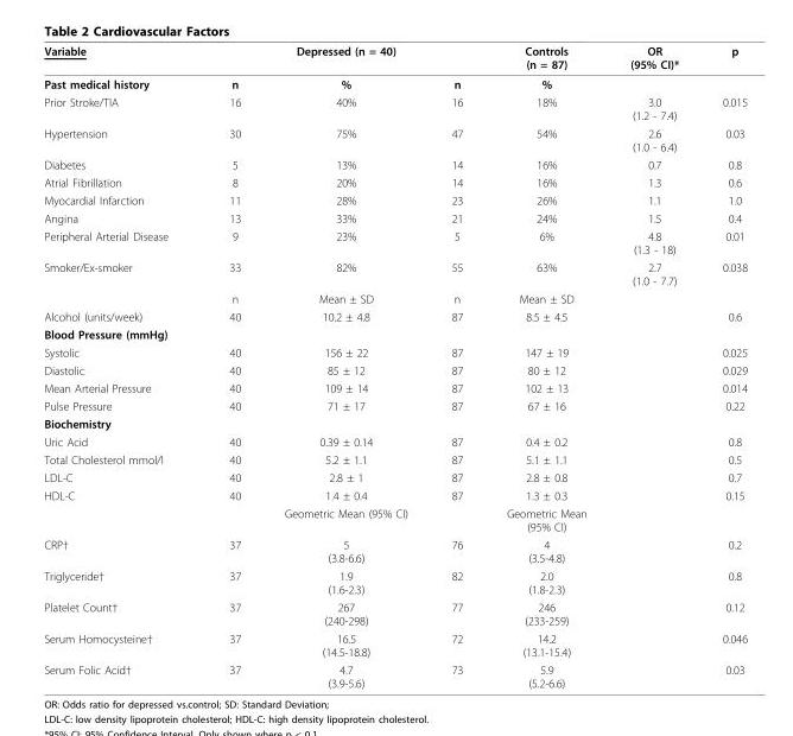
<table><thead><tr><td>Variable</td><td></td><td>Depressed (n = 40)</td><td></td><td>Controls (n = 87)</td><td>OR (95% CI)*</td><td>p</td></tr></thead><tbody><tr><td>Past medical history</td><td>n</td><td>%</td><td>n</td><td>%</td><td></td><td></td></tr><tr><td>Prior Stroke/TIA</td><td>16</td><td>40%</td><td>16</td><td>18%</td><td>3.0 (1.2 - 7.4)</td><td>0.015</td></tr><tr><td>Hypertension</td><td>30</td><td>75%</td><td>47</td><td>54%</td><td>2.6 (1.0 - 6.4)</td><td>0.03</td></tr><tr><td>Diabetes</td><td>5</td><td>13%</td><td>14</td><td>16%</td><td>0.7</td><td>0.8</td></tr><tr><td>Atrial Fibrillation</td><td>8</td><td>20%</td><td>14</td><td>16%</td><td>1.3</td><td>0.6</td></tr><tr><td>Myocardial Infarction</td><td>11</td><td>28%</td><td>23</td><td>26%</td><td>1.1</td><td>1.0</td></tr><tr><td>Angina</td><td>13</td><td>33%</td><td>21</td><td>24%</td><td>1.5</td><td>0.4</td></tr><tr><td>Peripheral Arterial Disease</td><td>9</td><td>23%</td><td>5</td><td>6%</td><td>4.8 (1.3 - 18)</td><td>0.01</td></tr><tr><td rowspan="2">Smoker/Ex-smoker</td><td>33</td><td>82%</td><td>55</td><td>63%</td><td>2.7 (1.0 - 7.7)</td><td>0.038</td></tr><tr><td>n</td><td>Mean ± SD</td><td>n</td><td>Mean ± SD</td><td></td><td></td></tr><tr><td>Alcohol (units/week)</td><td>40</td><td>10.2 ± 4.8</td><td>87</td><td>8.5 ± 4.5</td><td></td><td>0.6</td></tr><tr><td colspan="7">Blood Pressure (mmHg)</td></tr><tr><td>Systolic</td><td>40</td><td>156 ± 22</td><td>87</td><td>147 ± 19</td><td></td><td>0.025</td></tr><tr><td>Diastolic</td><td>40</td><td>85 ± 12</td><td>87</td><td>80 ± 12</td><td></td><td>0.029</td></tr><tr><td>Mean Arterial Pressure</td><td>40</td><td>109 ± 14</td><td>87</td><td>102 ± 13</td><td></td><td>0.014</td></tr><tr><td>Pulse Pressure</td><td>40</td><td>71 ± 17</td><td>87</td><td>67 ± 16</td><td></td><td>0.22</td></tr><tr><td colspan="7">Biochemistry</td></tr><tr><td>Uric Acid</td><td>40</td><td>0.39 ± 0.14</td><td>87</td><td>0.4 ± 0.2</td><td></td><td>0.8</td></tr><tr><td>Total Cholesterol mmol/l</td><td>40</td><td>5.2 ± 1.1</td><td>87</td><td>5.1 ± 1.1</td><td></td><td>0.5</td></tr><tr><td>LDL-C</td><td>40</td><td>2.8 ± 1</td><td>87</td><td>2.8 ± 0.8</td><td></td><td>0.7</td></tr><tr><td rowspan="2">HDL-C</td><td>40</td><td>1.4 ± 0.4</td><td>87</td><td>1.3 ± 0.3</td><td></td><td>0.15</td></tr><tr><td></td><td>Geometric Mean (95% CI)</td><td></td><td>Geometric Mean (95% CI)</td><td></td><td></td></tr><tr><td>CRP†</td><td>37</td><td>5 (3.8-6.6)</td><td>76</td><td>4 (3.5-4.8)</td><td></td><td>0.2</td></tr><tr><td>Triglyceride†</td><td>37</td><td>1.9 (1.6-2.3)</td><td>82</td><td>2.0 (1.8-2.3)</td><td></td><td>0.8</td></tr><tr><td>Platelet Count†</td><td>37</td><td>267 (240-298)</td><td>77</td><td>246 (233-259)</td><td></td><td>0.12</td></tr><tr><td>Serum Homocysteine†</td><td>37</td><td>16.5 (14.5-18.8)</td><td>72</td><td>14.2 (13.1-15.4)</td><td></td><td>0.046</td></tr><tr><td>Serum Folic Acid†</td><td>37</td><td>4.7 (3.9-5.6)</td><td>73</td><td>5.9 (5.2-6.6)</td><td></td><td>0.03</td></tr></tbody></table>